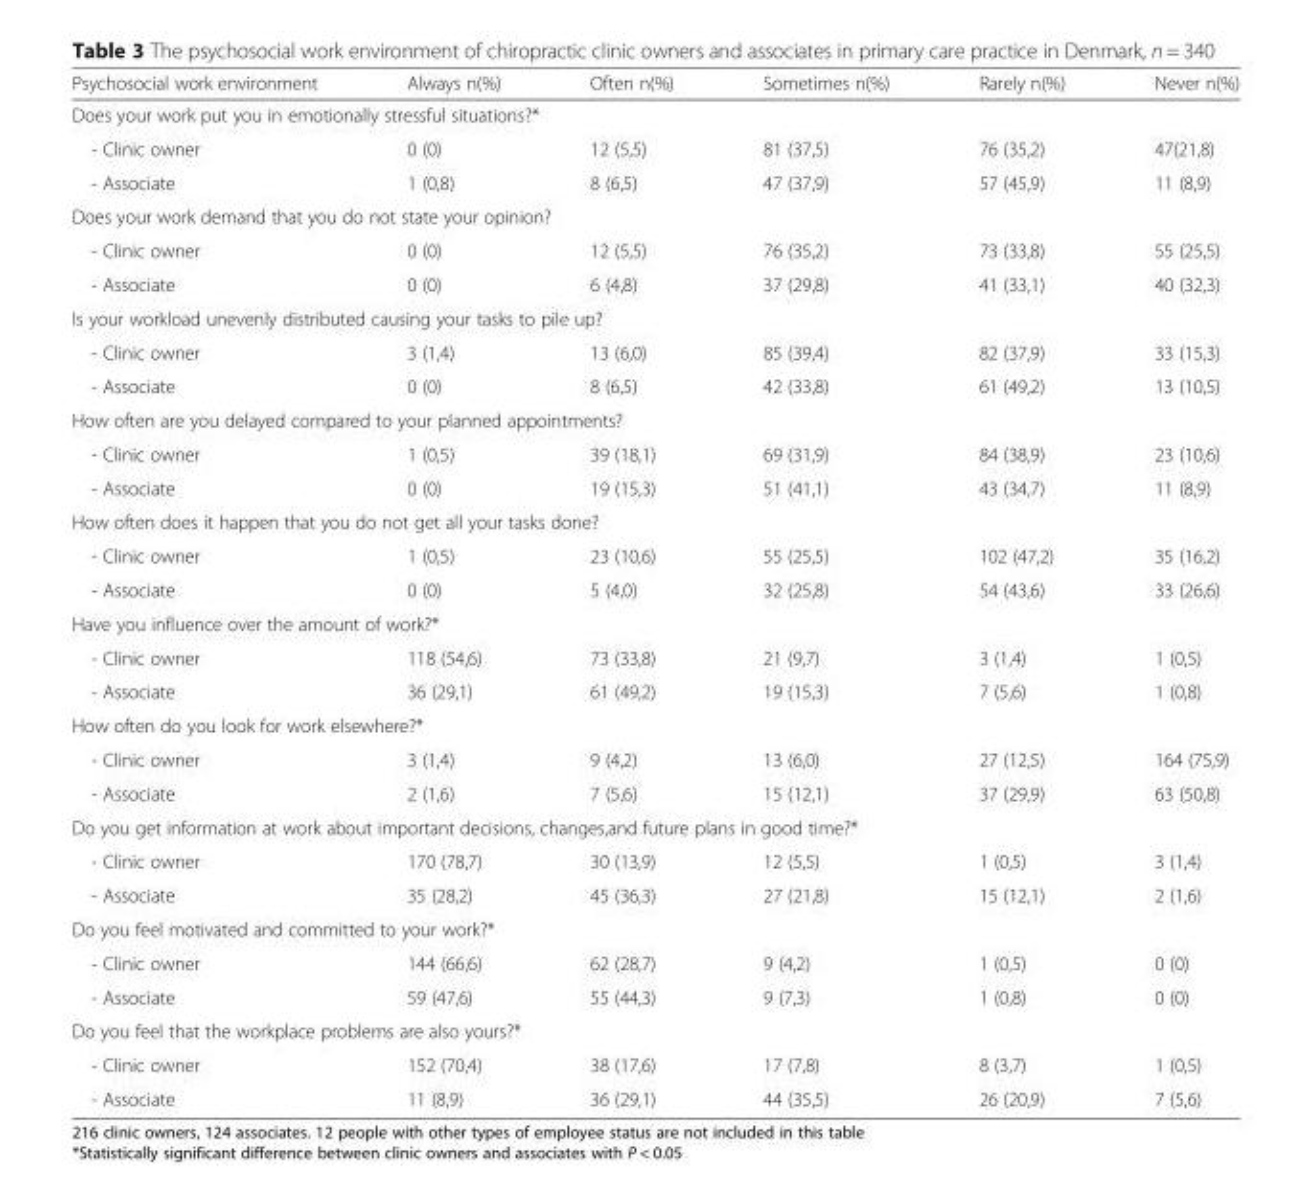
<table><thead><tr><td>Psychosocial work environment</td><td>Always n(%)</td><td>Often n(%)</td><td>Sometimes n(%)</td><td>Rarely n(%)</td><td>Never n(%)</td></tr></thead><tbody><tr><td colspan="6">Does your work put you in emotionally stressful situations?*</td></tr><tr><td>- Clinic owner</td><td>0 (0)</td><td>12 (5,5)</td><td>81 (37,5)</td><td>76 (35,2)</td><td>47(21,8)</td></tr><tr><td>- Associate</td><td>1 (0,8)</td><td>8 (6,5)</td><td>47 (37,9)</td><td>57 (45,9)</td><td>11 (8,9)</td></tr><tr><td colspan="6">Does your work demand that you do not state your opinion?</td></tr><tr><td>- Clinic owner</td><td>0 (0)</td><td>12 (5,5)</td><td>76 (35,2)</td><td>73 (33,8)</td><td>55 (25,5)</td></tr><tr><td>- Associate</td><td>0 (0)</td><td>6 (4,8)</td><td>37 (29,8)</td><td>41 (33,1)</td><td>40 (32,3)</td></tr><tr><td colspan="6">Is your workload unevenly distributed causing your tasks to pile up?</td></tr><tr><td>- Clinic owner</td><td>3 (1,4)</td><td>13 (6,0)</td><td>85 (39,4)</td><td>82 (37,9)</td><td>33 (15,3)</td></tr><tr><td>- Associate</td><td>0 (0)</td><td>8 (6,5)</td><td>42 (33,8)</td><td>61 (49,2)</td><td>13 (10,5)</td></tr><tr><td colspan="6">How often are you delayed compared to your planned appointments?</td></tr><tr><td>- Clinic owner</td><td>1 (0,5)</td><td>39 (18,1)</td><td>69 (31,9)</td><td>84 (38,9)</td><td>23 (10,6)</td></tr><tr><td>- Associate</td><td>0 (0)</td><td>19 (15,3)</td><td>51 (41,1)</td><td>43 (34,7)</td><td>11 (8,9)</td></tr><tr><td colspan="6">How often does it happen that you do not get all your tasks done?</td></tr><tr><td>- Clinic owner</td><td>1 (0,5)</td><td>23 (10,6)</td><td>55 (25,5)</td><td>102 (47,2)</td><td>35 (16,2)</td></tr><tr><td>- Associate</td><td>0 (0)</td><td>5 (4,0)</td><td>32 (25,8)</td><td>54 (43,6)</td><td>33 (26,6)</td></tr><tr><td colspan="6">Have you influence over the amount of work?*</td></tr><tr><td>- Clinic owner</td><td>118 (54,6)</td><td>73 (33,8)</td><td>21 (9,7)</td><td>3 (1,4)</td><td>1 (0,5)</td></tr><tr><td>- Associate</td><td>36 (29,1)</td><td>61 (49,2)</td><td>19 (15,3)</td><td>7 (5,6)</td><td>1 (0,8)</td></tr><tr><td colspan="6">How often do you look for work elsewhere?*</td></tr><tr><td>- Clinic owner</td><td>3 (1,4)</td><td>9 (4,2)</td><td>13 (6,0)</td><td>27 (12,5)</td><td>164 (75,9)</td></tr><tr><td>- Associate</td><td>2 (1,6)</td><td>7 (5,6)</td><td>15 (12,1)</td><td>37 (29,9)</td><td>63 (50,8)</td></tr><tr><td colspan="6">Do you get information at work about important decisions, changes,and future plans in good time?*</td></tr><tr><td>- Clinic owner</td><td>170 (78,7)</td><td>30 (13,9)</td><td>12 (5,5)</td><td>1 (0,5)</td><td>3 (1,4)</td></tr><tr><td>- Associate</td><td>35 (28,2)</td><td>45 (36,3)</td><td>27 (21,8)</td><td>15 (12,1)</td><td>2 (1,6)</td></tr><tr><td colspan="6">Do you feel motivated and committed to your work?*</td></tr><tr><td>- Clinic owner</td><td>144 (66,6)</td><td>62 (28,7)</td><td>9 (4,2)</td><td>1 (0,5)</td><td>0 (0)</td></tr><tr><td>- Associate</td><td>59 (47,6)</td><td>55 (44,3)</td><td>9 (7,3)</td><td>1 (0,8)</td><td>0 (0)</td></tr><tr><td colspan="6">Do you feel that the workplace problems are also yours?*</td></tr><tr><td>- Clinic owner</td><td>152 (70,4)</td><td>38 (17,6)</td><td>17 (7,8)</td><td>8 (3,7)</td><td>1 (0,5)</td></tr><tr><td>- Associate</td><td>11 (8,9)</td><td>36 (29,1)</td><td>44 (35,5)</td><td>26 (20,9)</td><td>7 (5,6)</td></tr></tbody></table>